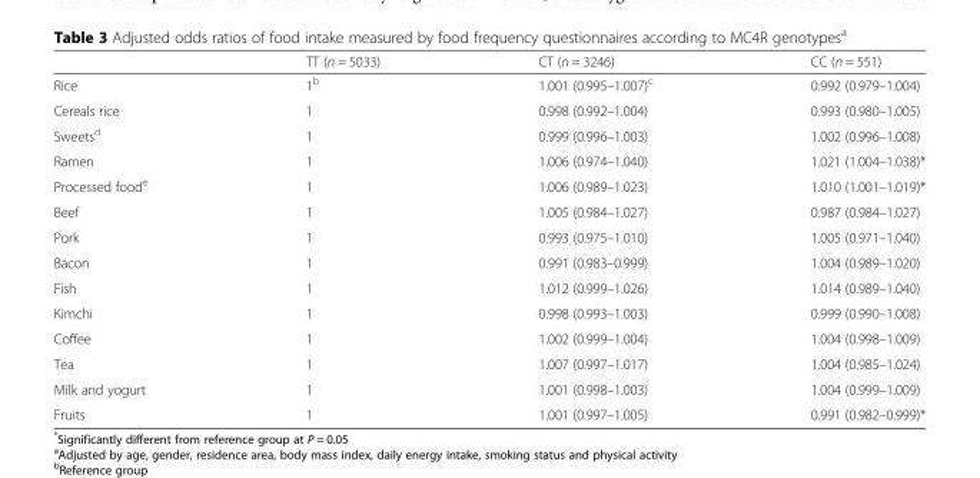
<table><thead><tr><td></td><td>TT (n = 5033)</td><td>CT (n = 3246)</td><td>CC (n = 551)</td></tr></thead><tbody><tr><td>Rice</td><td>1<sup>b</sup></td><td>1.001 (0.995–1.007)<sup>c</sup></td><td>0.992 (0.979–1.004)</td></tr><tr><td>Cereals rice</td><td>1</td><td>0.998 (0.992–1.004)</td><td>0.993 (0.980–1.005)</td></tr><tr><td>Sweets<sup>d</sup></td><td>1</td><td>0.999 (0.996–1.003)</td><td>1.002 (0.996–1.008)</td></tr><tr><td>Ramen</td><td>1</td><td>1.006 (0.974–1.040)</td><td>1.021 (1.004–1.038)*</td></tr><tr><td>Processed food<sup>e</sup></td><td>1</td><td>1.006 (0.989–1.023)</td><td>1.010 (1.001–1.019)*</td></tr><tr><td>Beef</td><td>1</td><td>1.005 (0.984–1.027)</td><td>0.987 (0.984–1.027)</td></tr><tr><td>Pork</td><td>1</td><td>0.993 (0.975–1.010)</td><td>1.005 (0.971–1.040)</td></tr><tr><td>Bacon</td><td>1</td><td>0.991 (0.983–0.999)</td><td>1.004 (0.989–1.020)</td></tr><tr><td>Fish</td><td>1</td><td>1.012 (0.999–1.026)</td><td>1.014 (0.989–1.040)</td></tr><tr><td>Kimchi</td><td>1</td><td>0.998 (0.993–1.003)</td><td>0.999 (0.990–1.008)</td></tr><tr><td>Coffee</td><td>1</td><td>1.002 (0.999–1.004)</td><td>1.004 (0.998–1.009)</td></tr><tr><td>Tea</td><td>1</td><td>1.007 (0.997–1.017)</td><td>1.004 (0.985–1.024)</td></tr><tr><td>Milk and yogurt</td><td>1</td><td>1.001 (0.998–1.003)</td><td>1.004 (0.999–1.009)</td></tr><tr><td>Fruits</td><td>1</td><td>1.001 (0.997–1.005)</td><td>0.991 (0.982–0.999)*</td></tr></tbody></table>